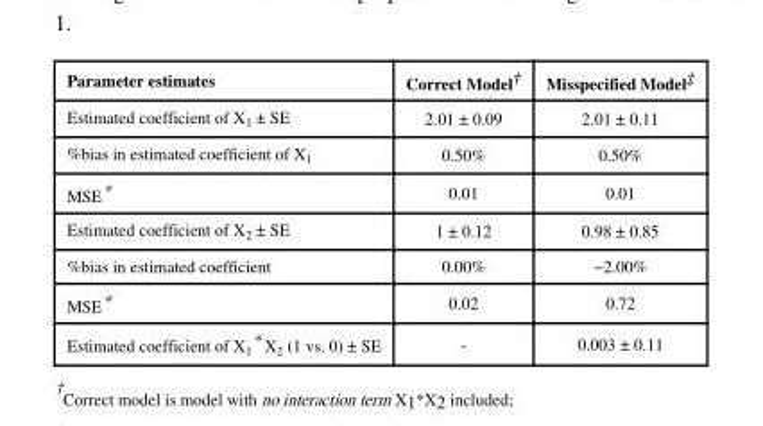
<table><thead><tr><td>Parameter estimates</td><td>Correct Model†</td><td>Misspecified Model‡</td></tr></thead><tbody><tr><td>Estimated coefficient of X<sub>1</sub> ± SE</td><td>2.01 ± 0.09</td><td>2.01 ± 0.11</td></tr><tr><td>%bias in estimated coefficient of X<sub>1</sub></td><td>0.50%</td><td>0.50%</td></tr><tr><td>MSE*</td><td>0.01</td><td>0.01</td></tr><tr><td>Estimated coefficient of X<sub>2</sub> ± SE</td><td>1 ± 0.12</td><td>0.98 ± 0.85</td></tr><tr><td>%bias in estimated coefficient</td><td>0.00%</td><td>−2.00%</td></tr><tr><td>MSE*</td><td>0.02</td><td>0.72</td></tr><tr><td>Estimated coefficient of X<sub>1</sub>* X<sub>2</sub> (1 vs. 0) ± SE</td><td>-</td><td>0.003 ± 0.11</td></tr></tbody></table>